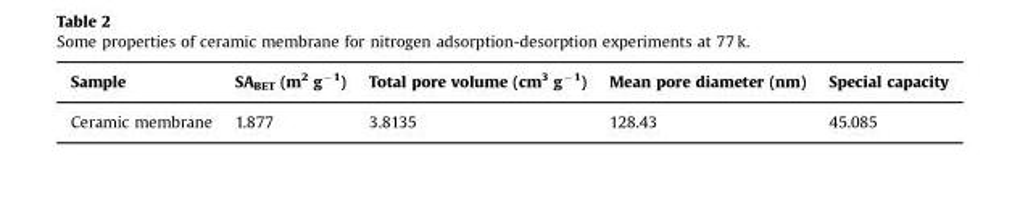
<table><thead><tr><td>Sample</td><td>SA<sub>BET</sub> (m<sup>2</sup> g<sup>−1</sup>)</td><td>Total pore volume (cm<sup>3</sup> g<sup>−1</sup>)</td><td>Mean pore diameter (nm)</td><td>Special capacity</td></tr></thead><tbody><tr><td>Ceramic membrane</td><td>1.877</td><td>3.8135</td><td>128.43</td><td>45.085</td></tr></tbody></table>